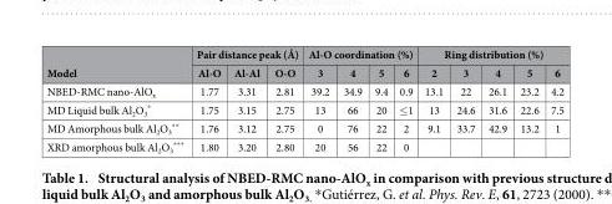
<table><thead><tr><td rowspan="2">Model</td><td colspan="3">Pair distance peak (Å)</td><td colspan="4">Al-O coordination (%)</td><td colspan="5">Ring distribution (%)</td></tr><tr><td>Al-O</td><td>Al-Al</td><td>O-O</td><td>3</td><td>4</td><td>5</td><td>6</td><td>2</td><td>3</td><td>4</td><td>5</td><td>6</td></tr></thead><tbody><tr><td>NBED-RMC nano-AlO<sub>x</sub></td><td>1.77</td><td>3.31</td><td>2.81</td><td>39.2</td><td>34.9</td><td>9.4</td><td>0.9</td><td>13.1</td><td>22</td><td>26.1</td><td>23.2</td><td>4.2</td></tr><tr><td>MD Liquid bulk Al<sub>2</sub>O<sub>3</sub> *</td><td>1.75</td><td>3.15</td><td>2.75</td><td>13</td><td>66</td><td>20</td><td>≤ 1</td><td>13</td><td>24.6</td><td>31.6</td><td>22.6</td><td>7.5</td></tr><tr><td>MD Amorphous bulk Al<sub>2</sub>O<sub>3</sub> **</td><td>1.76</td><td>3.12</td><td>2.75</td><td>0</td><td>76</td><td>22</td><td>2</td><td>9.1</td><td>33.7</td><td>42.9</td><td>13.2</td><td>1</td></tr><tr><td>XRD amorphous bulk Al<sub>2</sub>O<sub>3</sub> ***</td><td>1.80</td><td>3.20</td><td>2.80</td><td>20</td><td>56</td><td>22</td><td>0</td><td></td><td></td><td></td><td></td><td></td></tr></tbody></table>